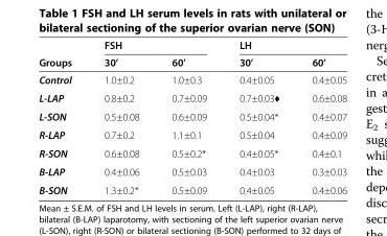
<table><thead><tr><td rowspan="2">Groups</td><td colspan="2">FSH</td><td colspan="2">LH</td></tr><tr><td>30’</td><td>60’</td><td>30’</td><td>60’</td></tr></thead><tbody><tr><td>Control</td><td>1.0±0.2</td><td>1.0±0.3</td><td>0.4±0.05</td><td>0.4±0.05</td></tr><tr><td>L-LAP</td><td>0.8±0.2</td><td>0.7±0.09</td><td>0.7±0.03♦</td><td>0.6±0.08</td></tr><tr><td>L-SON</td><td>0.5±0.08</td><td>0.6±0.09</td><td>0.5±0.04*</td><td>0.4±0.07</td></tr><tr><td>R-LAP</td><td>0.7±0.2</td><td>1.1±0.1</td><td>0.5±0.04</td><td>0.4±0.09</td></tr><tr><td>R-SON</td><td>0.6±0.08</td><td>0.5±0.2*</td><td>0.4±0.05*</td><td>0.4±0.1</td></tr><tr><td>B-LAP</td><td>0.4±0.06</td><td>0.5±0.03</td><td>0.4±0.03</td><td>0.3±0.03</td></tr><tr><td>B-SON</td><td>1.3±0.2*</td><td>0.5±0.09</td><td>0.4±0.05</td><td>0.4±0.06</td></tr></tbody></table>